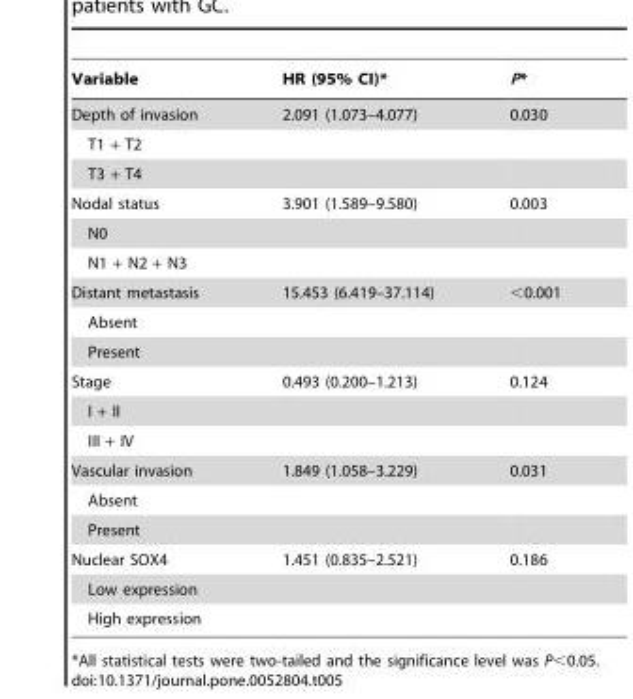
<table><thead><tr><td>Variable</td><td>HR (95% CI)*</td><td>P*</td></tr></thead><tbody><tr><td>Depth of invasion</td><td>2.091 (1.073–4.077)</td><td>0.030</td></tr><tr><td colspan="3">T1 + T2</td></tr><tr><td colspan="3">T3 + T4</td></tr><tr><td>Nodal status</td><td>3.901 (1.589–9.580)</td><td>0.003</td></tr><tr><td colspan="3">N0</td></tr><tr><td colspan="3">N1 + N2 + N3</td></tr><tr><td>Distant metastasis</td><td>15.453 (6.419–37.114)</td><td>&lt;0.001</td></tr><tr><td colspan="3">Absent</td></tr><tr><td colspan="3">Present</td></tr><tr><td>Stage</td><td>0.493 (0.200–1.213)</td><td>0.124</td></tr><tr><td colspan="3">I + II</td></tr><tr><td colspan="3">III + IV</td></tr><tr><td>Vascular invasion</td><td>1.849 (1.058–3.229)</td><td>0.031</td></tr><tr><td colspan="3">Absent</td></tr><tr><td colspan="3">Present</td></tr><tr><td>Nuclear SOX4</td><td>1.451 (0.835–2.521)</td><td>0.186</td></tr><tr><td colspan="3">Low expression</td></tr><tr><td>High expression</td><td></td><td></td></tr></tbody></table>